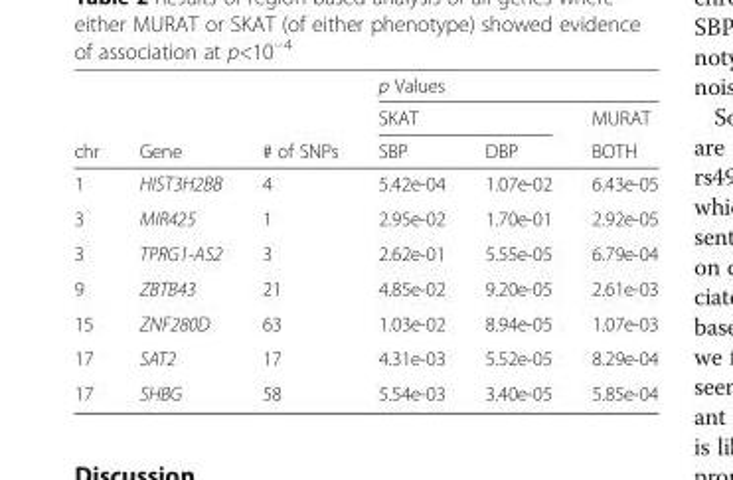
<table><thead><tr><td rowspan="3">chr</td><td rowspan="3">Gene</td><td rowspan="3"># of SNPs</td><td colspan="3">p Values</td></tr><tr><td colspan="2">SKAT</td><td rowspan="2">MURAT BOTH</td></tr><tr><td>SBP</td><td>DBP</td></tr></thead><tbody><tr><td>1</td><td>HIST3H2BB</td><td>4</td><td>5.42e-04</td><td>1.07e-02</td><td>6.43e-05</td></tr><tr><td>3</td><td>MIR425</td><td>1</td><td>2.95e-02</td><td>1.70e-01</td><td>2.92e-05</td></tr><tr><td>3</td><td>TPRG1-AS2</td><td>3</td><td>2.62e-01</td><td>5.55e-05</td><td>6.79e-04</td></tr><tr><td>9</td><td>ZBTB43</td><td>21</td><td>4.85e-02</td><td>9.20e-05</td><td>2.61e-03</td></tr><tr><td>15</td><td>ZNF280D</td><td>63</td><td>1.03e-02</td><td>8.94e-05</td><td>1.07e-03</td></tr><tr><td>17</td><td>SAT2</td><td>17</td><td>4.31e-03</td><td>5.52e-05</td><td>8.29e-04</td></tr><tr><td>17</td><td>SHBG</td><td>58</td><td>5.54e-03</td><td>3.40e-05</td><td>5.85e-04</td></tr></tbody></table>